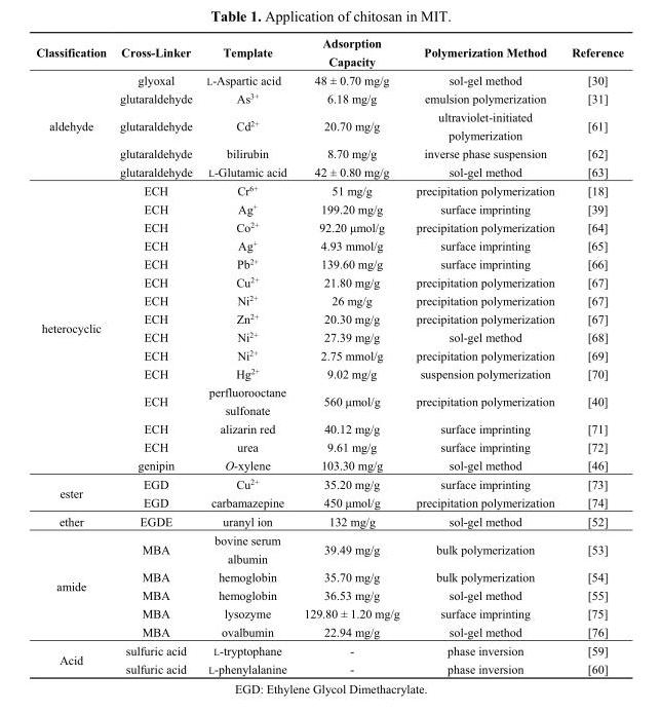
<table><thead><tr><td>Classification</td><td>Cross-Linker</td><td>Template</td><td>Adsorption Capacity</td><td>Polymerization Method</td><td>Reference</td></tr></thead><tbody><tr><td rowspan="5">aldehyde</td><td>glyoxal</td><td>L-Aspartic acid</td><td>48 ± 0.70 mg/g</td><td>sol-gel method</td><td>[30]</td></tr><tr><td>glutaraldehyde</td><td>As<sup>3+</sup></td><td>6.18 mg/g</td><td>emulsion polymerization</td><td>[31]</td></tr><tr><td>glutaraldehyde</td><td>Cd<sup>2+</sup></td><td>20.70 mg/g</td><td>ultraviolet-initiated polymerization</td><td>[61]</td></tr><tr><td>glutaraldehyde</td><td>bilirubin</td><td>8.70 mg/g</td><td>inverse phase suspension</td><td>[62]</td></tr><tr><td>glutaraldehyde</td><td>L-Glutamic acid</td><td>42 ± 0.80 mg/g</td><td>sol-gel method</td><td>[63]</td></tr><tr><td rowspan="15">heterocyclic</td><td>ECH</td><td>Cr<sup>6+</sup></td><td>51 mg/g</td><td>precipitation polymerization</td><td>[18]</td></tr><tr><td>ECH</td><td>Ag<sup>+</sup></td><td>199.20 mg/g</td><td>surface imprinting</td><td>[39]</td></tr><tr><td>ECH</td><td>Co<sup>2+</sup></td><td>92.20 μmol/g</td><td>precipitation polymerization</td><td>[64]</td></tr><tr><td>ECH</td><td>Ag<sup>+</sup></td><td>4.93 mmol/g</td><td>surface imprinting</td><td>[65]</td></tr><tr><td>ECH</td><td>Pb<sup>2+</sup></td><td>139.60 mg/g</td><td>surface imprinting</td><td>[66]</td></tr><tr><td>ECH</td><td>Cu<sup>2+</sup></td><td>21.80 mg/g</td><td>precipitation polymerization</td><td>[67]</td></tr><tr><td>ECH</td><td>Ni<sup>2+</sup></td><td>26 mg/g</td><td>precipitation polymerization</td><td>[67]</td></tr><tr><td>ECH</td><td>Zn<sup>2+</sup></td><td>20.30 mg/g</td><td>precipitation polymerization</td><td>[67]</td></tr><tr><td>ECH</td><td>Ni<sup>2+</sup></td><td>27.39 mg/g</td><td>sol-gel method</td><td>[68]</td></tr><tr><td>ECH</td><td>Ni<sup>2+</sup></td><td>2.75 mmol/g</td><td>precipitation polymerization</td><td>[69]</td></tr><tr><td>ECH</td><td>Hg<sup>2+</sup></td><td>9.02 mg/g</td><td>suspension polymerization</td><td>[70]</td></tr><tr><td>ECH</td><td>perfluorooctane sulfonate</td><td>560 μmol/g</td><td>precipitation polymerization</td><td>[40]</td></tr><tr><td>ECH</td><td>alizarin red</td><td>40.12 mg/g</td><td>surface imprinting</td><td>[71]</td></tr><tr><td>ECH</td><td>urea</td><td>9.61 mg/g</td><td>surface imprinting</td><td>[72]</td></tr><tr><td>genipin</td><td>O-xylene</td><td>103.30 mg/g</td><td>sol-gel method</td><td>[46]</td></tr><tr><td rowspan="2">ester</td><td>EGD</td><td>Cu<sup>2+</sup></td><td>35.20 mg/g</td><td>surface imprinting</td><td>[73]</td></tr><tr><td>EGD</td><td>carbamazepine</td><td>450 μmol/g</td><td>precipitation polymerization</td><td>[74]</td></tr><tr><td>ether</td><td>EGDE</td><td>uranyl ion</td><td>132 mg/g</td><td>sol-gel method</td><td>[52]</td></tr><tr><td rowspan="5">amide</td><td>MBA</td><td>bovine serum albumin</td><td>39.49 mg/g</td><td>bulk polymerization</td><td>[53]</td></tr><tr><td>MBA</td><td>hemoglobin</td><td>35.70 mg/g</td><td>bulk polymerization</td><td>[54]</td></tr><tr><td>MBA</td><td>hemoglobin</td><td>36.53 mg/g</td><td>sol-gel method</td><td>[55]</td></tr><tr><td>MBA</td><td>lysozyme</td><td>129.80 ± 1.20 mg/g</td><td>surface imprinting</td><td>[75]</td></tr><tr><td>MBA</td><td>ovalbumin</td><td>22.94 mg/g</td><td>sol-gel method</td><td>[76]</td></tr><tr><td rowspan="2">Acid</td><td>sulfuric acid</td><td>L-tryptophane</td><td>-</td><td>phase inversion</td><td>[59]</td></tr><tr><td>sulfuric acid</td><td>L-phenylalanine</td><td>-</td><td>phase inversion</td><td>[60]</td></tr></tbody></table>